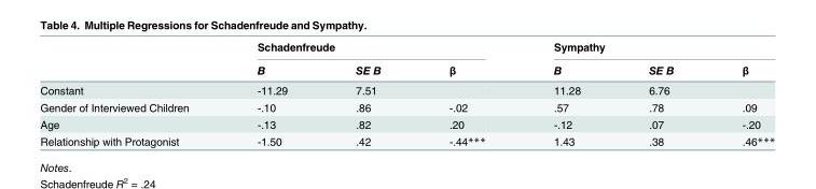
<table><thead><tr><td rowspan="2"></td><td colspan="3">Schadenfreude</td><td colspan="3">Sympathy</td></tr><tr><td>B</td><td>SE B</td><td>β</td><td>B</td><td>SE B</td><td>β</td></tr></thead><tbody><tr><td>Constant</td><td>-11.29</td><td>7.51</td><td></td><td>11.28</td><td>6.76</td><td></td></tr><tr><td>Gender of Interviewed Children</td><td>-.10</td><td>.86</td><td>-.02</td><td>.57</td><td>.78</td><td>.09</td></tr><tr><td>Age</td><td>-.13</td><td>.82</td><td>.20</td><td>-.12</td><td>.07</td><td>-.20</td></tr><tr><td>Relationship with Protagonist</td><td>-1.50</td><td>.42</td><td>-.44***</td><td>1.43</td><td>.38</td><td>.46***</td></tr></tbody></table>